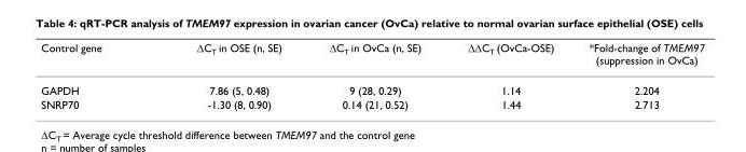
<table><thead><tr><td>Control gene</td><td>ΔC<sub>T</sub> in OSE (n, SE)</td><td>ΔC<sub>T</sub> in OvCa (n, SE)</td><td>ΔΔC<sub>T</sub> (OvCa-OSE)</td><td>*Fold-change of TMEM97 (suppression in OvCa)</td></tr></thead><tbody><tr><td>GAPDH</td><td>7.86 (5, 0.48)</td><td>9 (28, 0.29)</td><td>1.14</td><td>2.204</td></tr><tr><td>SNRP70</td><td>-1.30 (8, 0.90)</td><td>0.14 (21, 0.52)</td><td>1.44</td><td>2.713</td></tr></tbody></table>